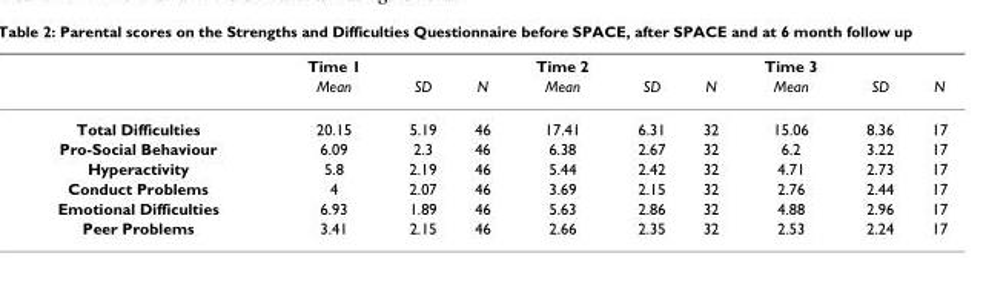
<table><thead><tr><td rowspan="2"></td><td rowspan="2">Time 1 Mean</td><td rowspan="2">SD</td><td rowspan="2">N</td><td rowspan="2">Time 2 Mean</td><td rowspan="2">SD</td><td rowspan="2">N</td><td rowspan="2">Time 3 Mean</td><td rowspan="2">SD</td><td rowspan="2">N</td></tr><tr></tr></thead><tbody><tr><td>Total Difficulties</td><td>20.15</td><td>5.19</td><td>46</td><td>17.41</td><td>6.31</td><td>32</td><td>15.06</td><td>8.36</td><td>17</td></tr><tr><td>Pro-Social Behaviour</td><td>6.09</td><td>2.3</td><td>46</td><td>6.38</td><td>2.67</td><td>32</td><td>6.2</td><td>3.22</td><td>17</td></tr><tr><td>Hyperactivity</td><td>5.8</td><td>2.19</td><td>46</td><td>5.44</td><td>2.42</td><td>32</td><td>4.71</td><td>2.73</td><td>17</td></tr><tr><td>Conduct Problems</td><td>4</td><td>2.07</td><td>46</td><td>3.69</td><td>2.15</td><td>32</td><td>2.76</td><td>2.44</td><td>17</td></tr><tr><td>Emotional Difficulties</td><td>6.93</td><td>1.89</td><td>46</td><td>5.63</td><td>2.86</td><td>32</td><td>4.88</td><td>2.96</td><td>17</td></tr><tr><td>Peer Problems</td><td>3.41</td><td>2.15</td><td>46</td><td>2.66</td><td>2.35</td><td>32</td><td>2.53</td><td>2.24</td><td>17</td></tr></tbody></table>